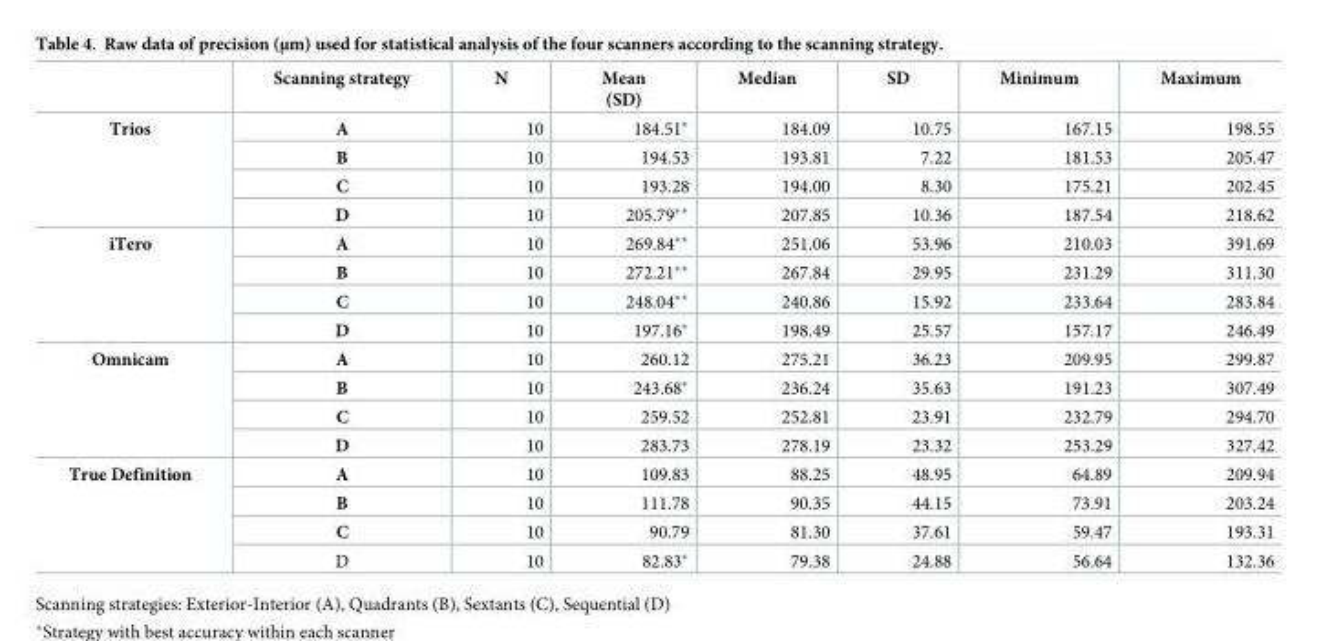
<table><thead><tr><td></td><td>Scanning strategy</td><td>N</td><td>Mean (SD)</td><td>Median</td><td>SD</td><td>Minimum</td><td>Maximum</td></tr></thead><tbody><tr><td rowspan="4">Trios</td><td>A</td><td>10</td><td>184.51*</td><td>184.09</td><td>10.75</td><td>167.15</td><td>198.55</td></tr><tr><td>B</td><td>10</td><td>194.53</td><td>193.81</td><td>7.22</td><td>181.53</td><td>205.47</td></tr><tr><td>C</td><td>10</td><td>193.28</td><td>194.00</td><td>8.30</td><td>175.21</td><td>202.45</td></tr><tr><td>D</td><td>10</td><td>205.79**</td><td>207.85</td><td>10.36</td><td>187.54</td><td>218.62</td></tr><tr><td rowspan="4">iTero</td><td>A</td><td>10</td><td>269.84**</td><td>251.06</td><td>53.96</td><td>210.03</td><td>391.69</td></tr><tr><td>B</td><td>10</td><td>272.21**</td><td>267.84</td><td>29.95</td><td>231.29</td><td>311.30</td></tr><tr><td>C</td><td>10</td><td>248.04**</td><td>240.86</td><td>15.92</td><td>233.64</td><td>283.84</td></tr><tr><td>D</td><td>10</td><td>197.16*</td><td>198.49</td><td>25.57</td><td>157.17</td><td>246.49</td></tr><tr><td rowspan="4">Omnicam</td><td>A</td><td>10</td><td>260.12</td><td>275.21</td><td>36.23</td><td>209.95</td><td>299.87</td></tr><tr><td>B</td><td>10</td><td>243.68*</td><td>236.24</td><td>35.63</td><td>191.23</td><td>307.49</td></tr><tr><td>C</td><td>10</td><td>259.52</td><td>252.81</td><td>23.91</td><td>232.79</td><td>294.70</td></tr><tr><td>D</td><td>10</td><td>283.73</td><td>278.19</td><td>23.32</td><td>253.29</td><td>327.42</td></tr><tr><td rowspan="4">True Definition</td><td>A</td><td>10</td><td>109.83</td><td>88.25</td><td>48.95</td><td>64.89</td><td>209.94</td></tr><tr><td>B</td><td>10</td><td>111.78</td><td>90.35</td><td>44.15</td><td>73.91</td><td>203.24</td></tr><tr><td>C</td><td>10</td><td>90.79</td><td>81.30</td><td>37.61</td><td>59.47</td><td>193.31</td></tr><tr><td>D</td><td>10</td><td>82.83*</td><td>79.38</td><td>24.88</td><td>56.64</td><td>132.36</td></tr></tbody></table>